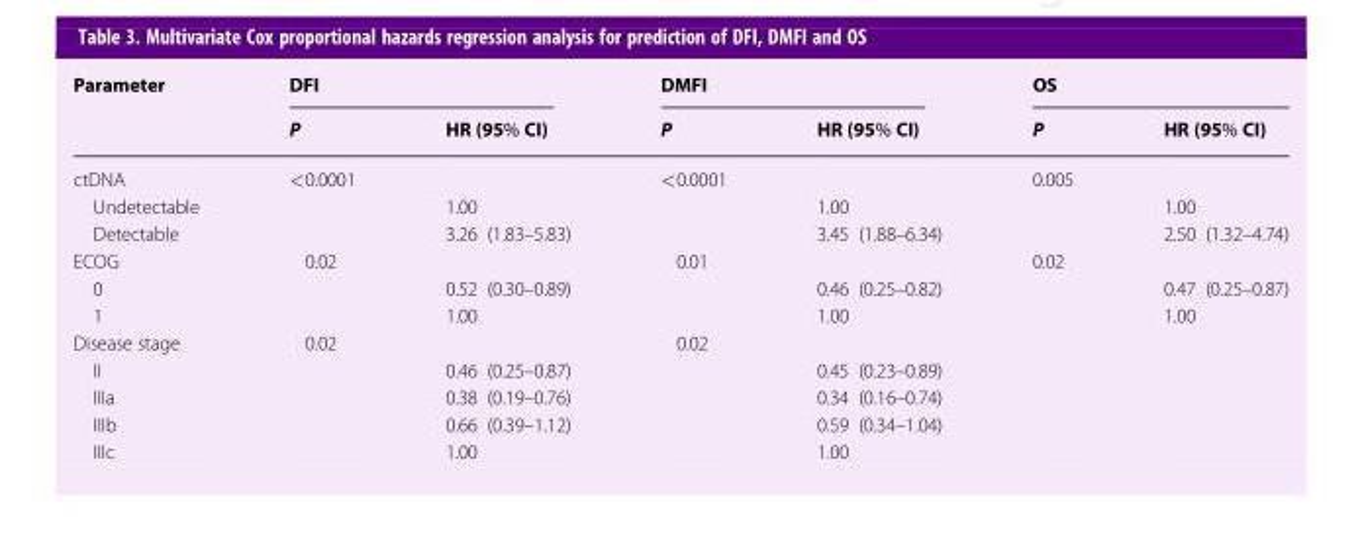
<table><thead><tr><td rowspan="2">Parameter</td><td colspan="2">DFI</td><td colspan="2">DMFI</td><td colspan="2">OS</td></tr><tr><td>P</td><td>HR (95% CI)</td><td>P</td><td>HR (95% CI)</td><td>P</td><td>HR (95% CI)</td></tr></thead><tbody><tr><td>ctDNA</td><td>&lt;0.0001</td><td></td><td>&lt;0.0001</td><td></td><td>0.005</td><td></td></tr><tr><td>Undetectable</td><td></td><td>1.00</td><td></td><td>1.00</td><td></td><td>1.00</td></tr><tr><td>Detectable</td><td></td><td>3.26 (1.83–5.83)</td><td></td><td>3.45 (1.88–6.34)</td><td></td><td>2.50 (1.32–4.74)</td></tr><tr><td>ECOG</td><td>0.02</td><td></td><td>0.01</td><td></td><td>0.02</td><td></td></tr><tr><td>0</td><td></td><td>0.52 (0.30–0.89)</td><td></td><td>0.46 (0.25–0.82)</td><td></td><td>0.47 (0.25–0.87)</td></tr><tr><td>1</td><td></td><td>1.00</td><td></td><td>1.00</td><td></td><td>1.00</td></tr><tr><td>Disease stage</td><td>0.02</td><td></td><td>0.02</td><td></td><td></td><td></td></tr><tr><td>II</td><td></td><td>0.46 (0.25–0.87)</td><td></td><td>0.45 (0.23–0.89)</td><td></td><td></td></tr><tr><td>IIIa</td><td></td><td>0.38 (0.19–0.76)</td><td></td><td>0.34 (0.16–0.74)</td><td></td><td></td></tr><tr><td>IIIb</td><td></td><td>0.66 (0.39–1.12)</td><td></td><td>0.59 (0.34–1.04)</td><td></td><td></td></tr><tr><td>IIIc</td><td></td><td>1.00</td><td></td><td>1.00</td><td></td><td></td></tr></tbody></table>